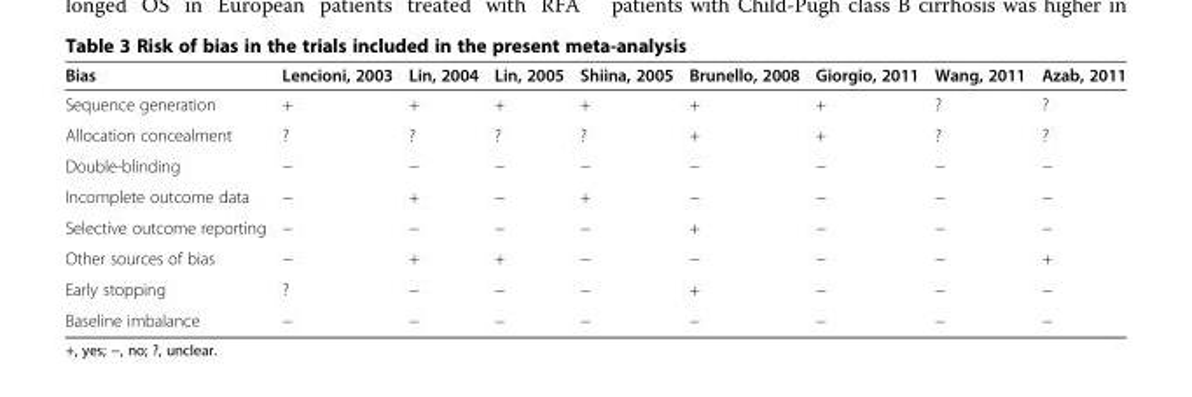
<table><thead><tr><td>Bias</td><td>Lencioni, 2003</td><td>Lin, 2004</td><td>Lin, 2005</td><td>Shiina, 2005</td><td>Brunello, 2008</td><td>Giorgio, 2011</td><td>Wang, 2011</td><td>Azab, 2011</td></tr></thead><tbody><tr><td>Sequence generation</td><td>+</td><td>+</td><td>+</td><td>+</td><td>+</td><td>+</td><td>?</td><td>?</td></tr><tr><td>Allocation concealment</td><td>?</td><td>?</td><td>?</td><td>?</td><td>+</td><td>+</td><td>?</td><td>?</td></tr><tr><td>Double-blinding</td><td>−</td><td>−</td><td>−</td><td>−</td><td>−</td><td>−</td><td>−</td><td>−</td></tr><tr><td>Incomplete outcome data</td><td>−</td><td>+</td><td>−</td><td>+</td><td>−</td><td>−</td><td>−</td><td>−</td></tr><tr><td>Selective outcome reporting</td><td>−</td><td>−</td><td>−</td><td>−</td><td>+</td><td>−</td><td>−</td><td>−</td></tr><tr><td>Other sources of bias</td><td>−</td><td>+</td><td>+</td><td>−</td><td>−</td><td>−</td><td>−</td><td>+</td></tr><tr><td>Early stopping</td><td>?</td><td>−</td><td>−</td><td>−</td><td>+</td><td>−</td><td>−</td><td>−</td></tr><tr><td>Baseline imbalance</td><td>−</td><td>−</td><td>−</td><td>−</td><td>−</td><td>−</td><td>−</td><td>−</td></tr></tbody></table>